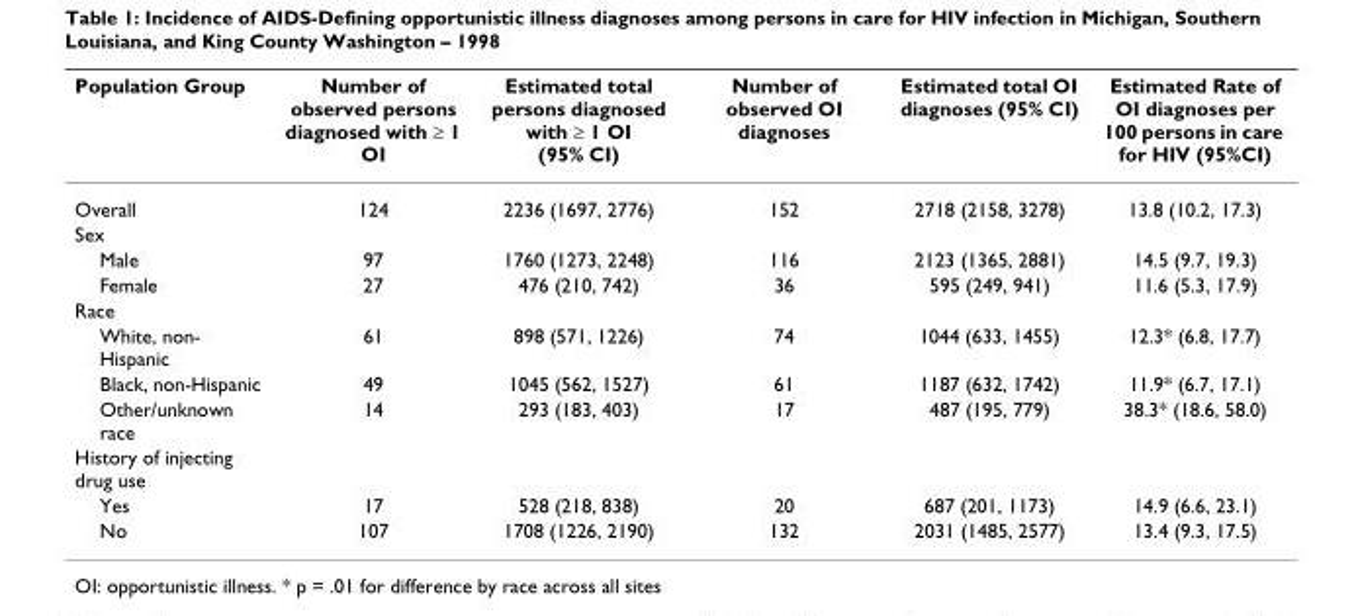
<table><thead><tr><td>Population Group</td><td>Number of observed persons diagnosed with ≥ 1 OI</td><td>Estimated total persons diagnosed with ≥ 1 OI (95% CI)</td><td>Number of observed OI diagnoses</td><td>Estimated total OI diagnoses (95% CI)</td><td>Estimated Rate of OI diagnoses per 100 persons in care for HIV (95%CI)</td></tr></thead><tbody><tr><td>Overall</td><td>124</td><td>2236 (1697, 2776)</td><td>152</td><td>2718 (2158, 3278)</td><td>13.8 (10.2, 17.3)</td></tr><tr><td colspan="6">Sex</td></tr><tr><td>Male</td><td>97</td><td>1760 (1273, 2248)</td><td>116</td><td>2123 (1365, 2881)</td><td>14.5 (9.7, 19.3)</td></tr><tr><td>Female</td><td>27</td><td>476 (210, 742)</td><td>36</td><td>595 (249, 941)</td><td>11.6 (5.3, 17.9)</td></tr><tr><td colspan="6">Race</td></tr><tr><td>White, non- Hispanic</td><td>61</td><td>898 (571, 1226)</td><td>74</td><td>1044 (633, 1455)</td><td>12.3* (6.8, 17.7)</td></tr><tr><td>Black, non-Hispanic</td><td>49</td><td>1045 (562, 1527)</td><td>61</td><td>1187 (632, 1742)</td><td>11.9* (6.7, 17.1)</td></tr><tr><td>Other/unknown race</td><td>14</td><td>293 (183, 403)</td><td>17</td><td>487 (195, 779)</td><td>38.3* (18.6, 58.0)</td></tr><tr><td colspan="6">History of injecting drug use</td></tr><tr><td>Yes</td><td>17</td><td>528 (218, 838)</td><td>20</td><td>687 (201, 1173)</td><td>14.9 (6.6, 23.1)</td></tr><tr><td>No</td><td>107</td><td>1708 (1226, 2190)</td><td>132</td><td>2031 (1485, 2577)</td><td>13.4 (9.3, 17.5)</td></tr></tbody></table>